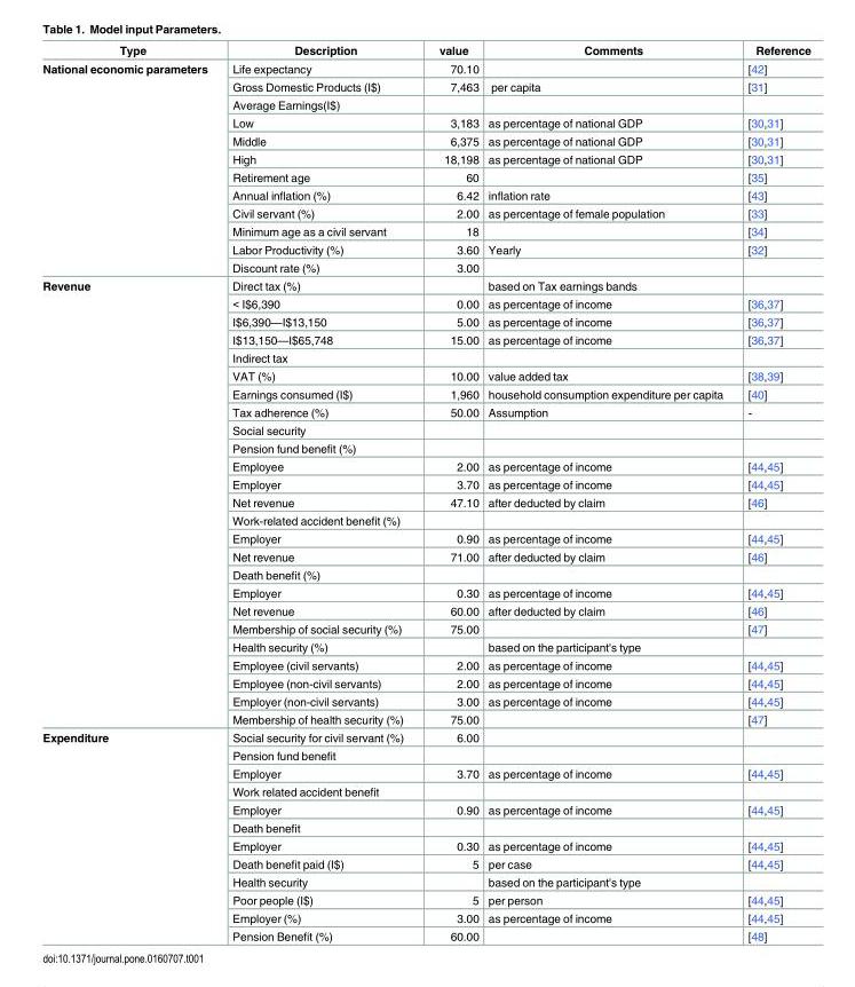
<table><thead><tr><td>Type</td><td>Description</td><td>value</td><td>Comments</td><td>Reference</td></tr></thead><tbody><tr><td rowspan="12">National economic parameters</td><td>Life expectancy</td><td>70.10</td><td></td><td>[42]</td></tr><tr><td>Gross Domestic Products (I$)</td><td>7,463</td><td>per capita</td><td>[31]</td></tr><tr><td>Average Earnings(I$)</td><td></td><td></td><td></td></tr><tr><td>Low</td><td>3,183</td><td>as percentage of national GDP</td><td>[30,31]</td></tr><tr><td>Middle</td><td>6,375</td><td>as percentage of national GDP</td><td>[30,31]</td></tr><tr><td>High</td><td>18,198</td><td>as percentage of national GDP</td><td>[30,31]</td></tr><tr><td>Retirement age</td><td>60</td><td></td><td>[35]</td></tr><tr><td>Annual inflation (%)</td><td>6.42</td><td>inflation rate</td><td>[43]</td></tr><tr><td>Civil servant (%)</td><td>2.00</td><td>as percentage of female population</td><td>[33]</td></tr><tr><td>Minimum age as a civil servant</td><td>18</td><td></td><td>[34]</td></tr><tr><td>Labor Productivity (%)</td><td>3.60</td><td>Yearly</td><td>[32]</td></tr><tr><td>Discount rate (%)</td><td>3.00</td><td></td><td></td></tr><tr><td rowspan="25">Revenue</td><td>Direct tax (%)</td><td></td><td>based on Tax earnings bands</td><td></td></tr><tr><td>&lt; I$6,390</td><td>0.00</td><td>as percentage of income</td><td>[36,37]</td></tr><tr><td>I$6,390—I$13,150</td><td>5.00</td><td>as percentage of income</td><td>[36,37]</td></tr><tr><td>I$13,150—I$65,748</td><td>15.00</td><td>as percentage of income</td><td>[36,37]</td></tr><tr><td>Indirect tax</td><td></td><td></td><td></td></tr><tr><td>VAT (%)</td><td>10.00</td><td>value added tax</td><td>[38,39]</td></tr><tr><td>Earnings consumed (I$)</td><td>1,960</td><td>household consumption expenditure per capita</td><td>[40]</td></tr><tr><td>Tax adherence (%)</td><td>50.00</td><td>Assumption</td><td>-</td></tr><tr><td>Social security</td><td></td><td></td><td></td></tr><tr><td>Pension fund benefit (%)</td><td></td><td></td><td></td></tr><tr><td>Employee</td><td>2.00</td><td>as percentage of income</td><td>[44,45]</td></tr><tr><td>Employer</td><td>3.70</td><td>as percentage of income</td><td>[44,45]</td></tr><tr><td>Net revenue</td><td>47.10</td><td>after deducted by claim</td><td>[46]</td></tr><tr><td>Work-related accident benefit (%)</td><td></td><td></td><td></td></tr><tr><td>Employer</td><td>0.90</td><td>as percentage of income</td><td>[44,45]</td></tr><tr><td>Net revenue</td><td>71.00</td><td>after deducted by claim</td><td>[46]</td></tr><tr><td>Death benefit (%)</td><td></td><td></td><td></td></tr><tr><td>Employer</td><td>0.30</td><td>as percentage of income</td><td>[44,45]</td></tr><tr><td>Net revenue</td><td>60.00</td><td>after deducted by claim</td><td>[46]</td></tr><tr><td>Membership of social security (%)</td><td>75.00</td><td></td><td>[47]</td></tr><tr><td>Health security (%)</td><td></td><td>based on the participant&#x27;s type</td><td></td></tr><tr><td>Employee (civil servants)</td><td>2.00</td><td>as percentage of income</td><td>[44,45]</td></tr><tr><td>Employee (non-civil servants)</td><td>2.00</td><td>as percentage of income</td><td>[44,45]</td></tr><tr><td>Employer (non-civil servants)</td><td>3.00</td><td>as percentage of income</td><td>[44,45]</td></tr><tr><td>Membership of health security (%)</td><td>75.00</td><td></td><td>[47]</td></tr><tr><td rowspan="12">Expenditure</td><td>Social security for civil servant (%)</td><td>6.00</td><td></td><td></td></tr><tr><td>Pension fund benefit</td><td></td><td></td><td></td></tr><tr><td>Employer</td><td>3.70</td><td>as percentage of income</td><td>[44,45]</td></tr><tr><td>Work related accident benefit</td><td></td><td></td><td></td></tr><tr><td>Employer</td><td>0.90</td><td>as percentage of income</td><td>[44,45]</td></tr><tr><td>Death benefit</td><td></td><td></td><td></td></tr><tr><td>Employer</td><td>0.30</td><td>as percentage of income</td><td>[44,45]</td></tr><tr><td>Death benefit paid (I$)</td><td>5</td><td>per case</td><td>[44,45]</td></tr><tr><td>Health security</td><td></td><td>based on the participant&#x27;s type</td><td></td></tr><tr><td>Poor people (I$)</td><td>5</td><td>per person</td><td>[44,45]</td></tr><tr><td>Employer (%)</td><td>3.00</td><td>as percentage of income</td><td>[44,45]</td></tr><tr><td>Pension Benefit (%)</td><td>60.00</td><td></td><td>[48]</td></tr></tbody></table>